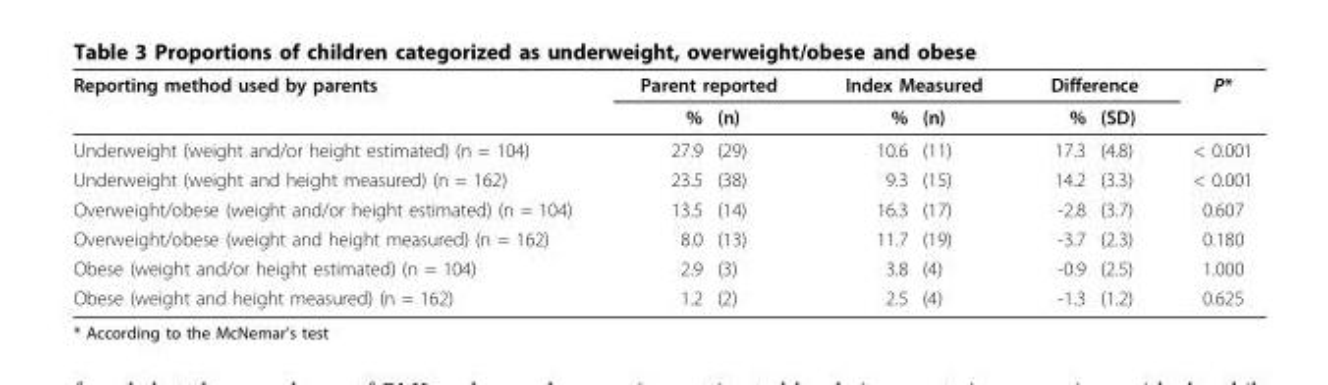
<table><thead><tr><td rowspan="2">Reporting method used by parents</td><td colspan="2">Parent reported</td><td colspan="2">Index Measured</td><td colspan="2">Difference</td><td rowspan="2">P*</td></tr><tr><td>%</td><td>(n)</td><td>%</td><td>(n)</td><td>%</td><td>(SD)</td></tr></thead><tbody><tr><td>Underweight (weight and/or height estimated) (n = 104)</td><td>27.9</td><td>(29)</td><td>10.6</td><td>(11)</td><td>17.3</td><td>(4.8)</td><td>&lt; 0.001</td></tr><tr><td>Underweight (weight and height measured) (n = 162)</td><td>23.5</td><td>(38)</td><td>9.3</td><td>(15)</td><td>14.2</td><td>(3.3)</td><td>&lt; 0.001</td></tr><tr><td>Overweight/obese (weight and/or height estimated) (n = 104)</td><td>13.5</td><td>(14)</td><td>16.3</td><td>(17)</td><td>-2.8</td><td>(3.7)</td><td>0.607</td></tr><tr><td>Overweight/obese (weight and height measured) (n = 162)</td><td>8.0</td><td>(13)</td><td>11.7</td><td>(19)</td><td>-3.7</td><td>(2.3)</td><td>0.180</td></tr><tr><td>Obese (weight and/or height estimated) (n = 104)</td><td>2.9</td><td>(3)</td><td>3.8</td><td>(4)</td><td>-0.9</td><td>(2.5)</td><td>1.000</td></tr><tr><td>Obese (weight and height measured) (n = 162)</td><td>1.2</td><td>(2)</td><td>2.5</td><td>(4)</td><td>-1.3</td><td>(1.2)</td><td>0.625</td></tr></tbody></table>